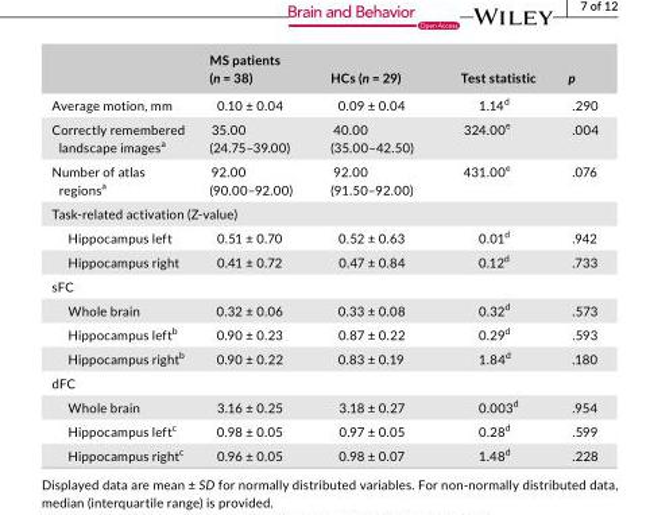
<table><thead><tr><td></td><td>MS patients (n = 38)</td><td>HCs (n = 29)</td><td>Test statistic</td><td>p</td></tr></thead><tbody><tr><td>Average motion, mm</td><td>0.10 ± 0.04</td><td>0.09 ± 0.04</td><td>1.14<sup>d</sup></td><td>.290</td></tr><tr><td>Correctly remembered landscape images<sup>a</sup></td><td>35.00 (24.75–39.00)</td><td>40.00 (35.00–42.50)</td><td>324.00<sup>e</sup></td><td>.004</td></tr><tr><td>Number of atlas regions<sup>a</sup></td><td>92.00 (90.00–92.00)</td><td>92.00 (91.50–92.00)</td><td>431.00<sup>e</sup></td><td>.076</td></tr><tr><td colspan="5">Task- related activation (Z- value)</td></tr><tr><td>Hippocampus left</td><td>0.51 ± 0.70</td><td>0.52 ± 0.63</td><td>0.01<sup>d</sup></td><td>.942</td></tr><tr><td>Hippocampus right</td><td>0.41 ± 0.72</td><td>0.47 ± 0.84</td><td>0.12<sup>d</sup></td><td>.733</td></tr><tr><td colspan="5">sFC</td></tr><tr><td>Whole brain</td><td>0.32 ± 0.06</td><td>0.33 ± 0.08</td><td>0.32<sup>d</sup></td><td>.573</td></tr><tr><td>Hippocampus left<sup>b</sup></td><td>0.90 ± 0.23</td><td>0.87 ± 0.22</td><td>0.29<sup>d</sup></td><td>.593</td></tr><tr><td>Hippocampus right<sup>b</sup></td><td>0.90 ± 0.22</td><td>0.83 ± 0.19</td><td>1.84<sup>d</sup></td><td>.180</td></tr><tr><td colspan="5">dFC</td></tr><tr><td>Whole brain</td><td>3.16 ± 0.25</td><td>3.18 ± 0.27</td><td>0.003<sup>d</sup></td><td>.954</td></tr><tr><td>Hippocampus left<sup>c</sup></td><td>0.98 ± 0.05</td><td>0.97 ± 0.05</td><td>0.28<sup>d</sup></td><td>.599</td></tr><tr><td>Hippocampus right<sup>c</sup></td><td>0.96 ± 0.05</td><td>0.98 ± 0.07</td><td>1.48<sup>d</sup></td><td>.228</td></tr></tbody></table>